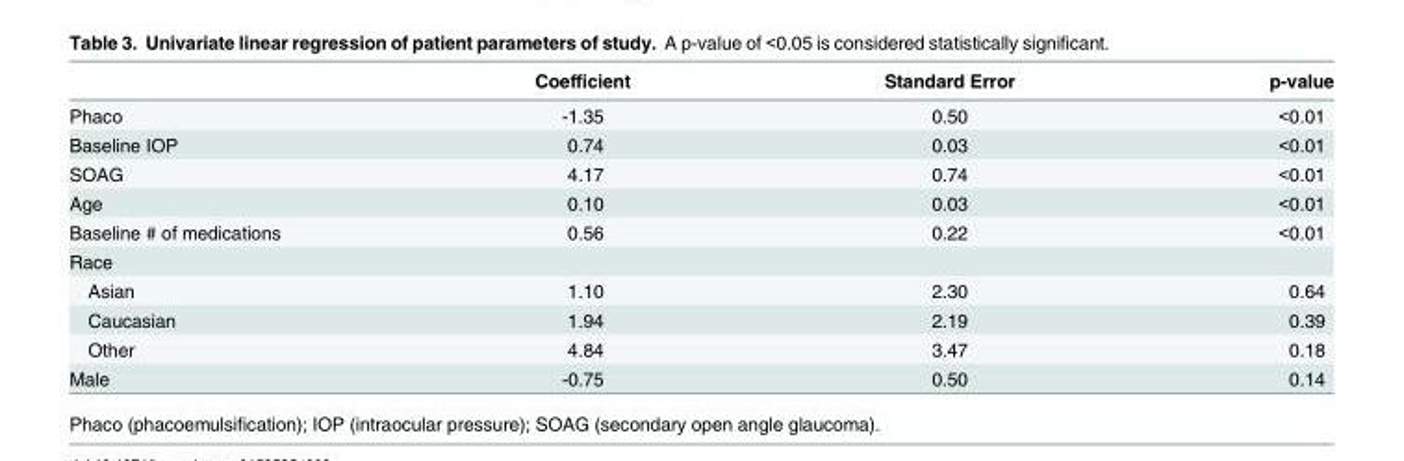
<table><thead><tr><td></td><td>Coefficient</td><td>Standard Error</td><td>p-value</td></tr></thead><tbody><tr><td>Phaco</td><td>-1.35</td><td>0.50</td><td>&lt;0.01</td></tr><tr><td>Baseline IOP</td><td>0.74</td><td>0.03</td><td>&lt;0.01</td></tr><tr><td>SOAG</td><td>4.17</td><td>0.74</td><td>&lt;0.01</td></tr><tr><td>Age</td><td>0.10</td><td>0.03</td><td>&lt;0.01</td></tr><tr><td>Baseline # of medications</td><td>0.56</td><td>0.22</td><td>&lt;0.01</td></tr><tr><td colspan="4">Race</td></tr><tr><td>Asian</td><td>1.10</td><td>2.30</td><td>0.64</td></tr><tr><td>Caucasian</td><td>1.94</td><td>2.19</td><td>0.39</td></tr><tr><td>Other</td><td>4.84</td><td>3.47</td><td>0.18</td></tr><tr><td>Male</td><td>-0.75</td><td>0.50</td><td>0.14</td></tr></tbody></table>